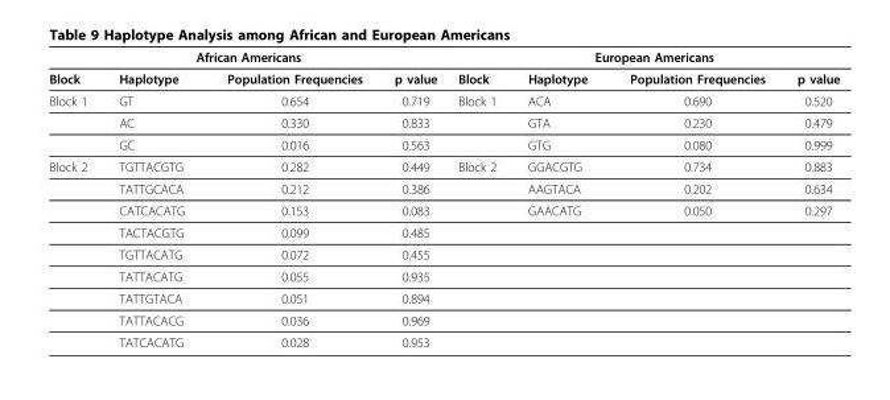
<table><thead><tr><td colspan="4">African Americans</td><td colspan="4">European Americans</td></tr><tr><td>Block</td><td>Haplotype</td><td>Population Frequencies</td><td>p value</td><td>Block</td><td>Haplotype</td><td>Population Frequencies</td><td>p value</td></tr></thead><tbody><tr><td rowspan="3">Block 1</td><td>GT</td><td>0.654</td><td>0.719</td><td>Block 1</td><td>ACA</td><td>0.690</td><td>0.520</td></tr><tr><td>AC</td><td>0.330</td><td>0.833</td><td></td><td>GTA</td><td>0.230</td><td>0.479</td></tr><tr><td>GC</td><td>0.016</td><td>0.563</td><td></td><td>GTG</td><td>0.080</td><td>0.999</td></tr><tr><td rowspan="9">Block 2</td><td>TGTTACGTG</td><td>0.282</td><td>0.449</td><td>Block 2</td><td>GGACGTG</td><td>0.734</td><td>0.883</td></tr><tr><td>TATTGCACA</td><td>0.212</td><td>0.386</td><td></td><td>AAGTACA</td><td>0.202</td><td>0.634</td></tr><tr><td>CATCACATG</td><td>0.153</td><td>0.083</td><td></td><td>GAACATG</td><td>0.050</td><td>0.297</td></tr><tr><td>TACTACGTG</td><td>0.099</td><td>0.485</td><td></td><td></td><td></td><td></td></tr><tr><td>TGTTACATG</td><td>0.072</td><td>0.455</td><td></td><td></td><td></td><td></td></tr><tr><td>TATTACATG</td><td>0.055</td><td>0.935</td><td></td><td></td><td></td><td></td></tr><tr><td>TATTGTACA</td><td>0.051</td><td>0.894</td><td></td><td></td><td></td><td></td></tr><tr><td>TATTACACG</td><td>0.036</td><td>0.969</td><td></td><td></td><td></td><td></td></tr><tr><td>TATCACATG</td><td>0.028</td><td>0.953</td><td></td><td></td><td></td><td></td></tr></tbody></table>